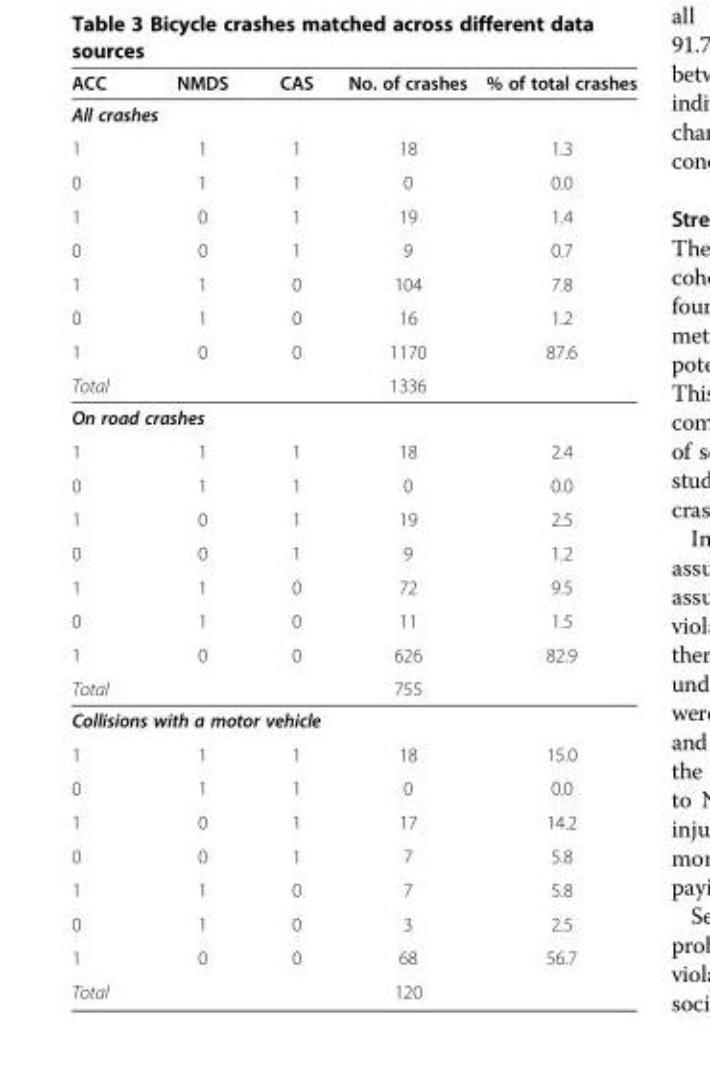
<table><thead><tr><td>ACC</td><td>NMDS</td><td>CAS</td><td>No. of crashes</td><td>% of total crashes</td></tr></thead><tbody><tr><td colspan="5">All crashes</td></tr><tr><td>1</td><td>1</td><td>1</td><td>18</td><td>1.3</td></tr><tr><td>0</td><td>1</td><td>1</td><td>0</td><td>0.0</td></tr><tr><td>1</td><td>0</td><td>1</td><td>19</td><td>1.4</td></tr><tr><td>0</td><td>0</td><td>1</td><td>9</td><td>0.7</td></tr><tr><td>1</td><td>1</td><td>0</td><td>104</td><td>7.8</td></tr><tr><td>0</td><td>1</td><td>0</td><td>16</td><td>1.2</td></tr><tr><td>1</td><td>0</td><td>0</td><td>1170</td><td>87.6</td></tr><tr><td>Total</td><td></td><td></td><td>1336</td><td></td></tr><tr><td colspan="5">On road crashes</td></tr><tr><td>1</td><td>1</td><td>1</td><td>18</td><td>2.4</td></tr><tr><td>0</td><td>1</td><td>1</td><td>0</td><td>0.0</td></tr><tr><td>1</td><td>0</td><td>1</td><td>19</td><td>2.5</td></tr><tr><td>0</td><td>0</td><td>1</td><td>9</td><td>1.2</td></tr><tr><td>1</td><td>1</td><td>0</td><td>72</td><td>9.5</td></tr><tr><td>0</td><td>1</td><td>0</td><td>11</td><td>1.5</td></tr><tr><td>1</td><td>0</td><td>0</td><td>626</td><td>82.9</td></tr><tr><td>Total</td><td></td><td></td><td>755</td><td></td></tr><tr><td colspan="5">Collisions with a motor vehicle</td></tr><tr><td>1</td><td>1</td><td>1</td><td>18</td><td>15.0</td></tr><tr><td>0</td><td>1</td><td>1</td><td>0</td><td>0.0</td></tr><tr><td>1</td><td>0</td><td>1</td><td>17</td><td>14.2</td></tr><tr><td>0</td><td>0</td><td>1</td><td>7</td><td>5.8</td></tr><tr><td>1</td><td>1</td><td>0</td><td>7</td><td>5.8</td></tr><tr><td>0</td><td>1</td><td>0</td><td>3</td><td>2.5</td></tr><tr><td>1</td><td>0</td><td>0</td><td>68</td><td>56.7</td></tr><tr><td>Total</td><td></td><td></td><td>120</td><td></td></tr></tbody></table>